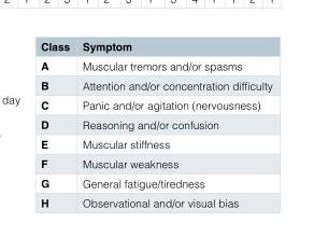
<table><thead><tr><td>Class</td><td>Symptom</td></tr></thead><tbody><tr><td>A</td><td>Muscular tremors and/or spasms</td></tr><tr><td>B</td><td>Attention and/or concentration difficulty</td></tr><tr><td>C</td><td>Panic and/or agitation (nervousness)</td></tr><tr><td>D</td><td>Reasoning and/or confusion</td></tr><tr><td>E</td><td>Muscular stiffness</td></tr><tr><td>F</td><td>Muscular weakness</td></tr><tr><td>G</td><td>General fatigue/tiredness</td></tr><tr><td>H</td><td>Observational and/or visual bias</td></tr></tbody></table>